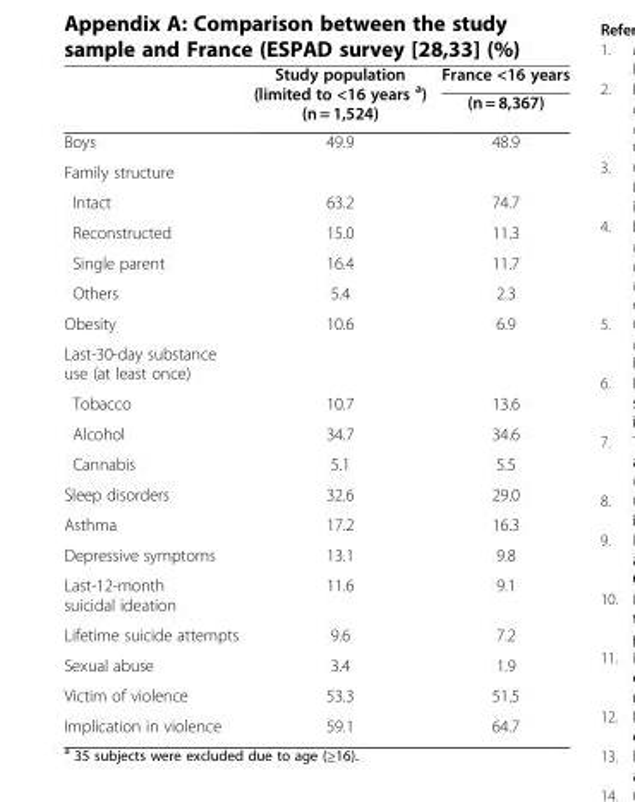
<table><thead><tr><td rowspan="2"></td><td rowspan="2">Study population (limited to &lt;16 years <sup>a</sup>) (n = 1,524)</td><td rowspan="2">France &lt;16 years (n = 8,367)</td></tr><tr></tr></thead><tbody><tr><td>Boys</td><td>49.9</td><td>48.9</td></tr><tr><td colspan="3">Family structure</td></tr><tr><td>Intact</td><td>63.2</td><td>74.7</td></tr><tr><td>Reconstructed</td><td>15.0</td><td>11.3</td></tr><tr><td>Single parent</td><td>16.4</td><td>11.7</td></tr><tr><td>Others</td><td>5.4</td><td>2.3</td></tr><tr><td>Obesity</td><td>10.6</td><td>6.9</td></tr><tr><td colspan="3">Last-30-day substance use (at least once)</td></tr><tr><td>Tobacco</td><td>10.7</td><td>13.6</td></tr><tr><td>Alcohol</td><td>34.7</td><td>34.6</td></tr><tr><td>Cannabis</td><td>5.1</td><td>5.5</td></tr><tr><td>Sleep disorders</td><td>32.6</td><td>29.0</td></tr><tr><td>Asthma</td><td>17.2</td><td>16.3</td></tr><tr><td>Depressive symptoms</td><td>13.1</td><td>9.8</td></tr><tr><td>Last-12-month suicidal ideation</td><td>11.6</td><td>9.1</td></tr><tr><td>Lifetime suicide attempts</td><td>9.6</td><td>7.2</td></tr><tr><td>Sexual abuse</td><td>3.4</td><td>1.9</td></tr><tr><td>Victim of violence</td><td>53.3</td><td>51.5</td></tr><tr><td>Implication in violence</td><td>59.1</td><td>64.7</td></tr></tbody></table>